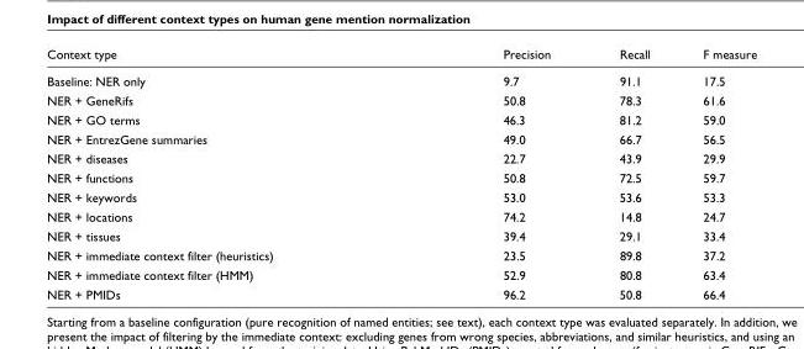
<table><thead><tr><td>Context type</td><td>Precision</td><td>Recall</td><td>F measure</td></tr></thead><tbody><tr><td>Baseline: NER only</td><td>9.7</td><td>91.1</td><td>17.5</td></tr><tr><td>NER + GeneRifs</td><td>50.8</td><td>78.3</td><td>61.6</td></tr><tr><td>NER + GO terms</td><td>46.3</td><td>81.2</td><td>59.0</td></tr><tr><td>NER + EntrezGene summaries</td><td>49.0</td><td>66.7</td><td>56.5</td></tr><tr><td>NER + diseases</td><td>22.7</td><td>43.9</td><td>29.9</td></tr><tr><td>NER + functions</td><td>50.8</td><td>72.5</td><td>59.7</td></tr><tr><td>NER + keywords</td><td>53.0</td><td>53.6</td><td>53.3</td></tr><tr><td>NER + locations</td><td>74.2</td><td>14.8</td><td>24.7</td></tr><tr><td>NER + tissues</td><td>39.4</td><td>29.1</td><td>33.4</td></tr><tr><td>NER + immediate context filter (heuristics)</td><td>23.5</td><td>89.8</td><td>37.2</td></tr><tr><td>NER + immediate context filter (HMM)</td><td>52.9</td><td>80.8</td><td>63.4</td></tr><tr><td>NER + PMIDs</td><td>96.2</td><td>50.8</td><td>66.4</td></tr></tbody></table>